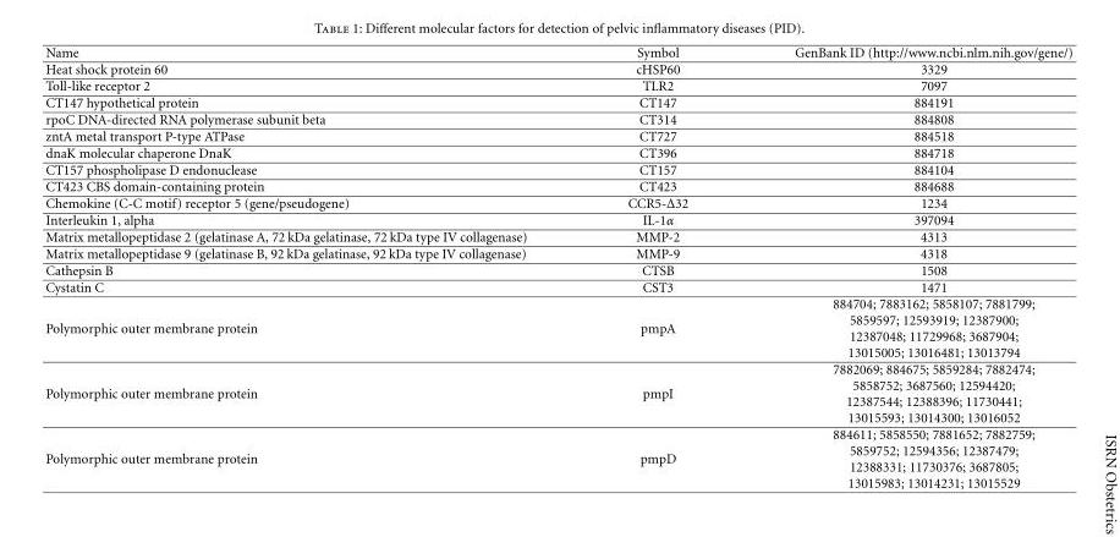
<table><thead><tr><td>Name</td><td>Symbol</td><td>GenBank ID (http://www.ncbi.nlm.nih.gov/gene/)</td></tr></thead><tbody><tr><td>Heat shock protein 60</td><td>cHSP60</td><td>3329</td></tr><tr><td>Toll-like receptor 2</td><td>TLR2</td><td>7097</td></tr><tr><td>CT147 hypothetical protein</td><td>CT147</td><td>884191</td></tr><tr><td>rpoC DNA-directed RNA polymerase subunit beta</td><td>CT314</td><td>884808</td></tr><tr><td>zntA metal transport P-type ATPase</td><td>CT727</td><td>884518</td></tr><tr><td>dnaK molecular chaperone DnaK</td><td>CT396</td><td>884718</td></tr><tr><td>CT157 phospholipase D endonuclease</td><td>CT157</td><td>884104</td></tr><tr><td>CT423 CBS domain-containing protein</td><td>CT423</td><td>884688</td></tr><tr><td>Chemokine (C-C motif) receptor 5 (gene/pseudogene)</td><td>CCR5-Δ32</td><td>1234</td></tr><tr><td>Interleukin 1, alpha</td><td>IL-1α</td><td>397094</td></tr><tr><td>Matrix metallopeptidase 2 (gelatinase A, 72 kDa gelatinase, 72 kDa type IV collagenase)</td><td>MMP-2</td><td>4313</td></tr><tr><td>Matrix metallopeptidase 9 (gelatinase B, 92 kDa gelatinase, 92 kDa type IV collagenase)</td><td>MMP-9</td><td>4318</td></tr><tr><td>Cathepsin B</td><td>CTSB</td><td>1508</td></tr><tr><td>Cystatin C</td><td>CST3</td><td>1471</td></tr><tr><td rowspan="4">Polymorphic outer membrane protein</td><td rowspan="4">pmpA</td><td>884704; 7883162; 5858107; 7881799;</td></tr><tr><td>5859597; 12593919; 12387900;</td></tr><tr><td>12387048; 11729968; 3687904;</td></tr><tr><td>13015005; 13016481; 13013794</td></tr><tr><td rowspan="4">Polymorphic outer membrane protein</td><td rowspan="4">pmpI</td><td>7882069; 884675; 5859284; 7882474;</td></tr><tr><td>5858752; 3687560; 12594420;</td></tr><tr><td>12387544; 12388396; 11730441;</td></tr><tr><td>13015593; 13014300; 13016052</td></tr><tr><td rowspan="4">Polymorphic outer membrane protein</td><td rowspan="4">pmpD</td><td>884611; 5858550; 7881652; 7882759;</td></tr><tr><td>5859752; 12594356; 12387479;</td></tr><tr><td>12388331; 11730376; 3687805;</td></tr><tr><td>13015983; 13014231; 13015529</td></tr></tbody></table>